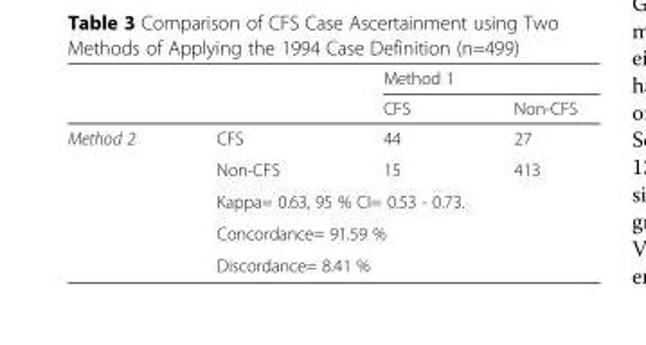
<table><thead><tr><td rowspan="2"></td><td rowspan="2"></td><td colspan="2">Method 1</td></tr><tr><td>CFS</td><td>Non-CFS</td></tr></thead><tbody><tr><td rowspan="5">Method 2</td><td>CFS</td><td>44</td><td>27</td></tr><tr><td>Non-CFS</td><td>15</td><td>413</td></tr><tr><td colspan="3">Kappa= 0.63, 95 % CI= 0.53 - 0.73.</td></tr><tr><td colspan="3">Concordance= 91.59 %</td></tr><tr><td colspan="3">Discordance= 8.41 %</td></tr></tbody></table>